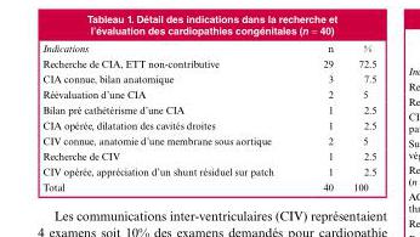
<table><thead><tr><td>Indications</td><td>n</td><td>%</td></tr></thead><tbody><tr><td>Recherche de CIA, ETT non-contributive</td><td>29</td><td>72.5</td></tr><tr><td>CIA connue, bilan anatomique</td><td>3</td><td>7.5</td></tr><tr><td>Réévaluation d’une CIA</td><td>2</td><td>5</td></tr><tr><td>Bilan pré cathétérisme d’une CIA</td><td>1</td><td>2.5</td></tr><tr><td>CIA opérée, dilatation des cavités droites</td><td>1</td><td>2.5</td></tr><tr><td>CIV connue, anatomie d’une membrane sous aortique</td><td>2</td><td>5</td></tr><tr><td>Recherche de CIV</td><td>1</td><td>2.5</td></tr><tr><td>CIV opérée, appréciation d’un shunt résiduel sur patch</td><td>1</td><td>2.5</td></tr><tr><td>Total</td><td>40</td><td>100</td></tr></tbody></table>